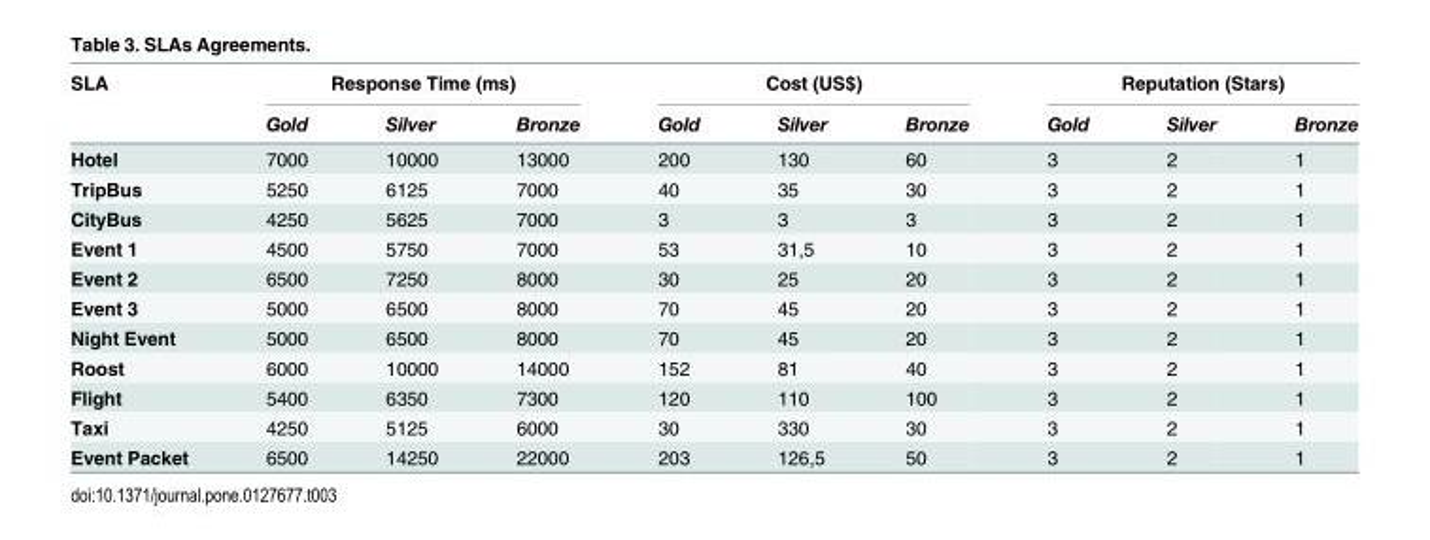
<table><thead><tr><td rowspan="2">SLA</td><td colspan="3">Response Time (ms)</td><td colspan="3">Cost (US$)</td><td colspan="3">Reputation (Stars)</td></tr><tr><td>Gold</td><td>Silver</td><td>Bronze</td><td>Gold</td><td>Silver</td><td>Bronze</td><td>Gold</td><td>Silver</td><td>Bronze</td></tr></thead><tbody><tr><td>Hotel</td><td>7000</td><td>10000</td><td>13000</td><td>200</td><td>130</td><td>60</td><td>3</td><td>2</td><td>1</td></tr><tr><td>TripBus</td><td>5250</td><td>6125</td><td>7000</td><td>40</td><td>35</td><td>30</td><td>3</td><td>2</td><td>1</td></tr><tr><td>CityBus</td><td>4250</td><td>5625</td><td>7000</td><td>3</td><td>3</td><td>3</td><td>3</td><td>2</td><td>1</td></tr><tr><td>Event 1</td><td>4500</td><td>5750</td><td>7000</td><td>53</td><td>31,5</td><td>10</td><td>3</td><td>2</td><td>1</td></tr><tr><td>Event 2</td><td>6500</td><td>7250</td><td>8000</td><td>30</td><td>25</td><td>20</td><td>3</td><td>2</td><td>1</td></tr><tr><td>Event 3</td><td>5000</td><td>6500</td><td>8000</td><td>70</td><td>45</td><td>20</td><td>3</td><td>2</td><td>1</td></tr><tr><td>Night Event</td><td>5000</td><td>6500</td><td>8000</td><td>70</td><td>45</td><td>20</td><td>3</td><td>2</td><td>1</td></tr><tr><td>Roost</td><td>6000</td><td>10000</td><td>14000</td><td>152</td><td>81</td><td>40</td><td>3</td><td>2</td><td>1</td></tr><tr><td>Flight</td><td>5400</td><td>6350</td><td>7300</td><td>120</td><td>110</td><td>100</td><td>3</td><td>2</td><td>1</td></tr><tr><td>Taxi</td><td>4250</td><td>5125</td><td>6000</td><td>30</td><td>330</td><td>30</td><td>3</td><td>2</td><td>1</td></tr><tr><td>Event Packet</td><td>6500</td><td>14250</td><td>22000</td><td>203</td><td>126,5</td><td>50</td><td>3</td><td>2</td><td>1</td></tr></tbody></table>